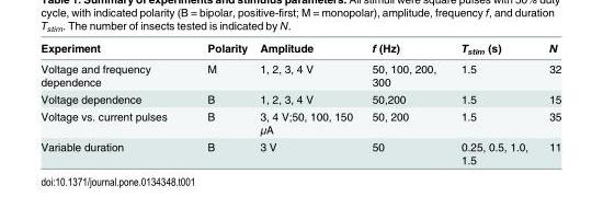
<table><thead><tr><td>Experiment</td><td>Polarity</td><td>Amplitude</td><td>f (Hz)</td><td>T<sub>stim</sub> (s)</td><td>N</td></tr></thead><tbody><tr><td>Voltage and frequency dependence</td><td>M</td><td>1, 2, 3, 4 V</td><td>50, 100, 200, 300</td><td>1.5</td><td>32</td></tr><tr><td>Voltage dependence</td><td>B</td><td>1, 2, 3, 4 V</td><td>50,200</td><td>1.5</td><td>15</td></tr><tr><td>Voltage vs. current pulses</td><td>B</td><td>3, 4 V;50, 100, 150 μA</td><td>50, 200</td><td>1.5</td><td>35</td></tr><tr><td>Variable duration</td><td>B</td><td>3 V</td><td>50</td><td>0.25, 0.5, 1.0, 1.5</td><td>11</td></tr></tbody></table>